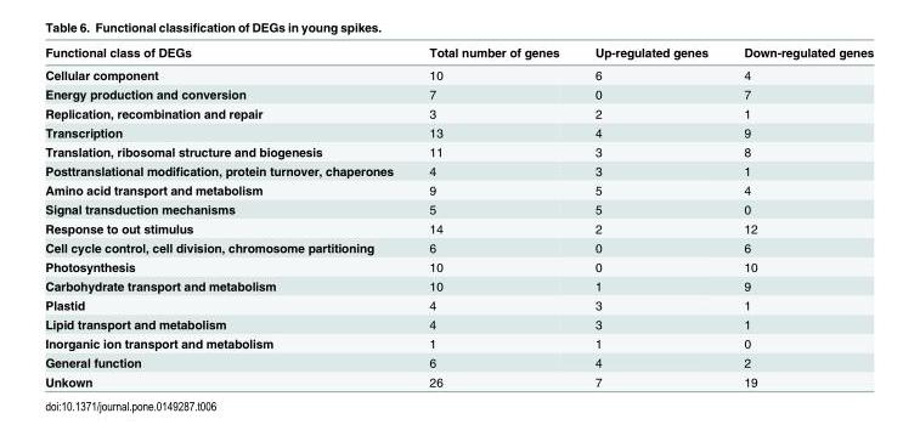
<table><thead><tr><td>Functional class of DEGs</td><td>Total number of genes</td><td>Up-regulated genes</td><td>Down-regulated genes</td></tr></thead><tbody><tr><td>Cellular component</td><td>10</td><td>6</td><td>4</td></tr><tr><td>Energy production and conversion</td><td>7</td><td>0</td><td>7</td></tr><tr><td>Replication, recombination and repair</td><td>3</td><td>2</td><td>1</td></tr><tr><td>Transcription</td><td>13</td><td>4</td><td>9</td></tr><tr><td>Translation, ribosomal structure and biogenesis</td><td>11</td><td>3</td><td>8</td></tr><tr><td>Posttranslational modification, protein turnover, chaperones</td><td>4</td><td>3</td><td>1</td></tr><tr><td>Amino acid transport and metabolism</td><td>9</td><td>5</td><td>4</td></tr><tr><td>Signal transduction mechanisms</td><td>5</td><td>5</td><td>0</td></tr><tr><td>Response to out stimulus</td><td>14</td><td>2</td><td>12</td></tr><tr><td>Cell cycle control, cell division, chromosome partitioning</td><td>6</td><td>0</td><td>6</td></tr><tr><td>Photosynthesis</td><td>10</td><td>0</td><td>10</td></tr><tr><td>Carbohydrate transport and metabolism</td><td>10</td><td>1</td><td>9</td></tr><tr><td>Plastid</td><td>4</td><td>3</td><td>1</td></tr><tr><td>Lipid transport and metabolism</td><td>4</td><td>3</td><td>1</td></tr><tr><td>Inorganic ion transport and metabolism</td><td>1</td><td>1</td><td>0</td></tr><tr><td>General function</td><td>6</td><td>4</td><td>2</td></tr><tr><td>Unkown</td><td>26</td><td>7</td><td>19</td></tr></tbody></table>